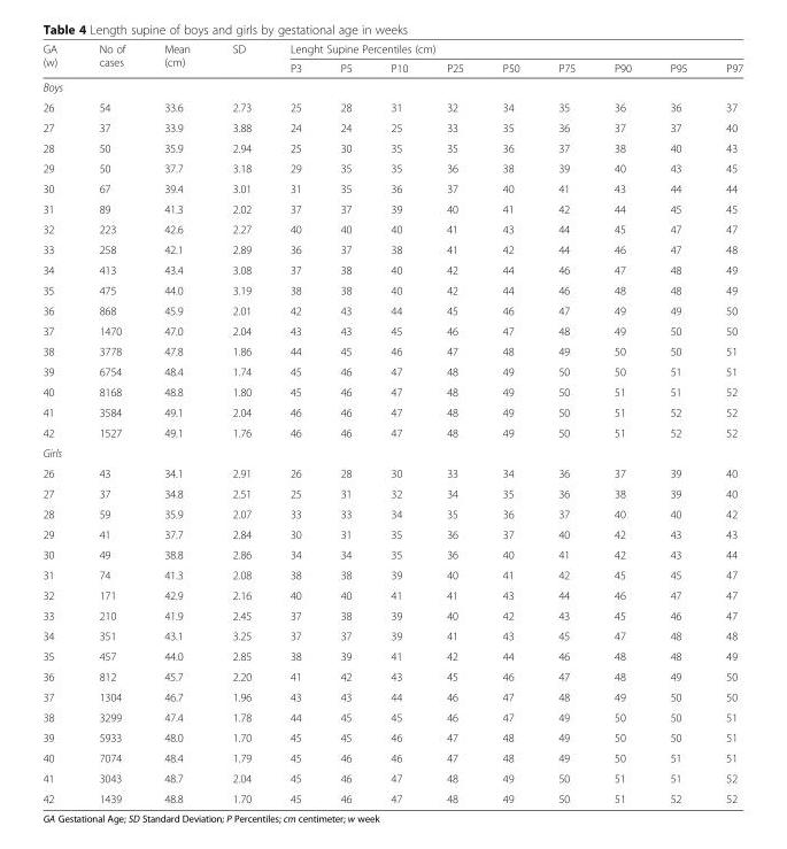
<table><thead><tr><td rowspan="2">GA (w)</td><td rowspan="2">No of cases</td><td rowspan="2">Mean (cm)</td><td rowspan="2">SD</td><td colspan="9">Lenght Supine Percentiles (cm)</td></tr><tr><td>P3</td><td>P5</td><td>P10</td><td>P25</td><td>P50</td><td>P75</td><td>P90</td><td>P95</td><td>P97</td></tr></thead><tbody><tr><td colspan="13">Boys</td></tr><tr><td>26</td><td>54</td><td>33.6</td><td>2.73</td><td>25</td><td>28</td><td>31</td><td>32</td><td>34</td><td>35</td><td>36</td><td>36</td><td>37</td></tr><tr><td>27</td><td>37</td><td>33.9</td><td>3.88</td><td>24</td><td>24</td><td>25</td><td>33</td><td>35</td><td>36</td><td>37</td><td>37</td><td>40</td></tr><tr><td>28</td><td>50</td><td>35.9</td><td>2.94</td><td>25</td><td>30</td><td>35</td><td>35</td><td>36</td><td>37</td><td>38</td><td>40</td><td>43</td></tr><tr><td>29</td><td>50</td><td>37.7</td><td>3.18</td><td>29</td><td>35</td><td>35</td><td>36</td><td>38</td><td>39</td><td>40</td><td>43</td><td>45</td></tr><tr><td>30</td><td>67</td><td>39.4</td><td>3.01</td><td>31</td><td>35</td><td>36</td><td>37</td><td>40</td><td>41</td><td>43</td><td>44</td><td>44</td></tr><tr><td>31</td><td>89</td><td>41.3</td><td>2.02</td><td>37</td><td>37</td><td>39</td><td>40</td><td>41</td><td>42</td><td>44</td><td>45</td><td>45</td></tr><tr><td>32</td><td>223</td><td>42.6</td><td>2.27</td><td>40</td><td>40</td><td>40</td><td>41</td><td>43</td><td>44</td><td>45</td><td>47</td><td>47</td></tr><tr><td>33</td><td>258</td><td>42.1</td><td>2.89</td><td>36</td><td>37</td><td>38</td><td>41</td><td>42</td><td>44</td><td>46</td><td>47</td><td>48</td></tr><tr><td>34</td><td>413</td><td>43.4</td><td>3.08</td><td>37</td><td>38</td><td>40</td><td>42</td><td>44</td><td>46</td><td>47</td><td>48</td><td>49</td></tr><tr><td>35</td><td>475</td><td>44.0</td><td>3.19</td><td>38</td><td>38</td><td>40</td><td>42</td><td>44</td><td>46</td><td>48</td><td>48</td><td>49</td></tr><tr><td>36</td><td>868</td><td>45.9</td><td>2.01</td><td>42</td><td>43</td><td>44</td><td>45</td><td>46</td><td>47</td><td>49</td><td>49</td><td>50</td></tr><tr><td>37</td><td>1470</td><td>47.0</td><td>2.04</td><td>43</td><td>43</td><td>45</td><td>46</td><td>47</td><td>48</td><td>49</td><td>50</td><td>50</td></tr><tr><td>38</td><td>3778</td><td>47.8</td><td>1.86</td><td>44</td><td>45</td><td>46</td><td>47</td><td>48</td><td>49</td><td>50</td><td>50</td><td>51</td></tr><tr><td>39</td><td>6754</td><td>48.4</td><td>1.74</td><td>45</td><td>46</td><td>47</td><td>48</td><td>49</td><td>50</td><td>50</td><td>51</td><td>51</td></tr><tr><td>40</td><td>8168</td><td>48.8</td><td>1.80</td><td>45</td><td>46</td><td>47</td><td>48</td><td>49</td><td>50</td><td>51</td><td>51</td><td>52</td></tr><tr><td>41</td><td>3584</td><td>49.1</td><td>2.04</td><td>46</td><td>46</td><td>47</td><td>48</td><td>49</td><td>50</td><td>51</td><td>52</td><td>52</td></tr><tr><td>42</td><td>1527</td><td>49.1</td><td>1.76</td><td>46</td><td>46</td><td>47</td><td>48</td><td>49</td><td>50</td><td>51</td><td>52</td><td>52</td></tr><tr><td colspan="13">Girls</td></tr><tr><td>26</td><td>43</td><td>34.1</td><td>2.91</td><td>26</td><td>28</td><td>30</td><td>33</td><td>34</td><td>36</td><td>37</td><td>39</td><td>40</td></tr><tr><td>27</td><td>37</td><td>34.8</td><td>2.51</td><td>25</td><td>31</td><td>32</td><td>34</td><td>35</td><td>36</td><td>38</td><td>39</td><td>40</td></tr><tr><td>28</td><td>59</td><td>35.9</td><td>2.07</td><td>33</td><td>33</td><td>34</td><td>35</td><td>36</td><td>37</td><td>40</td><td>40</td><td>42</td></tr><tr><td>29</td><td>41</td><td>37.7</td><td>2.84</td><td>30</td><td>31</td><td>35</td><td>36</td><td>37</td><td>40</td><td>42</td><td>43</td><td>43</td></tr><tr><td>30</td><td>49</td><td>38.8</td><td>2.86</td><td>34</td><td>34</td><td>35</td><td>36</td><td>40</td><td>41</td><td>42</td><td>43</td><td>44</td></tr><tr><td>31</td><td>74</td><td>41.3</td><td>2.08</td><td>38</td><td>38</td><td>39</td><td>40</td><td>41</td><td>42</td><td>45</td><td>45</td><td>47</td></tr><tr><td>32</td><td>171</td><td>42.9</td><td>2.16</td><td>40</td><td>40</td><td>41</td><td>41</td><td>43</td><td>44</td><td>46</td><td>47</td><td>47</td></tr><tr><td>33</td><td>210</td><td>41.9</td><td>2.45</td><td>37</td><td>38</td><td>39</td><td>40</td><td>42</td><td>43</td><td>45</td><td>46</td><td>47</td></tr><tr><td>34</td><td>351</td><td>43.1</td><td>3.25</td><td>37</td><td>37</td><td>39</td><td>41</td><td>43</td><td>45</td><td>47</td><td>48</td><td>48</td></tr><tr><td>35</td><td>457</td><td>44.0</td><td>2.85</td><td>38</td><td>39</td><td>41</td><td>42</td><td>44</td><td>46</td><td>48</td><td>48</td><td>49</td></tr><tr><td>36</td><td>812</td><td>45.7</td><td>2.20</td><td>41</td><td>42</td><td>43</td><td>45</td><td>46</td><td>47</td><td>48</td><td>49</td><td>50</td></tr><tr><td>37</td><td>1304</td><td>46.7</td><td>1.96</td><td>43</td><td>43</td><td>44</td><td>46</td><td>47</td><td>48</td><td>49</td><td>50</td><td>50</td></tr><tr><td>38</td><td>3299</td><td>47.4</td><td>1.78</td><td>44</td><td>45</td><td>45</td><td>46</td><td>47</td><td>49</td><td>50</td><td>50</td><td>51</td></tr><tr><td>39</td><td>5933</td><td>48.0</td><td>1.70</td><td>45</td><td>45</td><td>46</td><td>47</td><td>48</td><td>49</td><td>50</td><td>50</td><td>51</td></tr><tr><td>40</td><td>7074</td><td>48.4</td><td>1.79</td><td>45</td><td>46</td><td>46</td><td>47</td><td>48</td><td>49</td><td>50</td><td>51</td><td>51</td></tr><tr><td>41</td><td>3043</td><td>48.7</td><td>2.04</td><td>45</td><td>46</td><td>47</td><td>48</td><td>49</td><td>50</td><td>51</td><td>51</td><td>52</td></tr><tr><td>42</td><td>1439</td><td>48.8</td><td>1.70</td><td>45</td><td>46</td><td>47</td><td>48</td><td>49</td><td>50</td><td>51</td><td>52</td><td>52</td></tr></tbody></table>